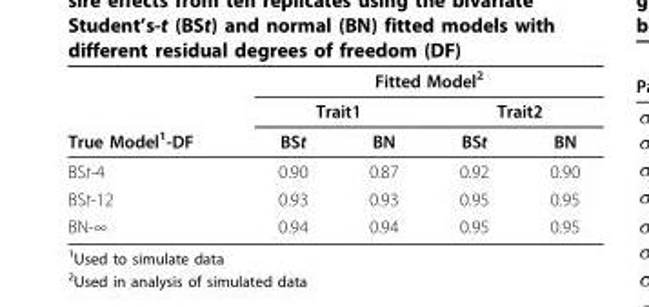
<table><thead><tr><td rowspan="3">True Model<sup>1</sup>-DF</td><td colspan="4">Fitted Model<sup>2</sup></td></tr><tr><td colspan="2">Trait1</td><td colspan="2">Trait2</td></tr><tr><td>BSt</td><td>BN</td><td>BSt</td><td>BN</td></tr></thead><tbody><tr><td>BSt-4</td><td>0.90</td><td>0.87</td><td>0.92</td><td>0.90</td></tr><tr><td>BSt-12</td><td>0.93</td><td>0.93</td><td>0.95</td><td>0.95</td></tr><tr><td>BN-∞</td><td>0.94</td><td>0.94</td><td>0.95</td><td>0.95</td></tr></tbody></table>